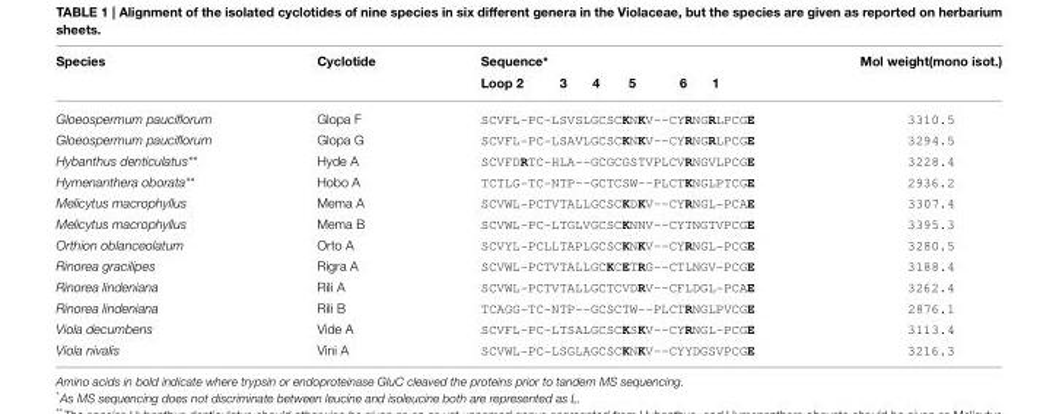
<table><thead><tr><td rowspan="2">Species</td><td rowspan="2">Cyclotide</td><td rowspan="2">Sequence* Loop 2 3 4 5 6 1</td><td rowspan="2">Mol weight(mono isot.)</td></tr><tr></tr></thead><tbody><tr><td>Gloeospermum pauciflorum</td><td>Glopa F</td><td>SCVFL-PC-LSVSLGCSCKNKV––CYRNGRLPCGE</td><td>3310.5</td></tr><tr><td>Gloeospermum pauciflorum</td><td>Glopa G</td><td>SCVFL-PC-LSAVLGCSCKNKV––CYRNGRLPCGE</td><td>3294.5</td></tr><tr><td>Hybanthus denticulatus**</td><td>Hyde A</td><td>SCVFDRTC-HLA––GCGCGSTVPLCVRNGVLPCGE</td><td>3228.4</td></tr><tr><td>Hymenanthera oborata**</td><td>Hobo A</td><td>TCTLG-TC-NTP––GCTCSW––PLCTKNGLPTCGE</td><td>2936.2</td></tr><tr><td>Melicytus macrophyllus</td><td>Mema A</td><td>SCVWL-PCTVTALLGCSCKDKV––CYRNGL-PCAE</td><td>3307.4</td></tr><tr><td>Melicytus macrophyllus</td><td>Mema B</td><td>SCVWL-PC-LTGLVGCSCKNNV––CYTNGTVPCGE</td><td>3395.3</td></tr><tr><td>Orthion oblanceolatum</td><td>Orto A</td><td>SCVYL-PCLLTAPLGCSCKNKV––CYRNGL-PCGE</td><td>3280.5</td></tr><tr><td>Rinorea gracilipes</td><td>Rigra A</td><td>SCVWL-PCTVTALLGCKCETRG––CTLNGV-PCGE</td><td>3188.4</td></tr><tr><td>Rinorea lindeniana</td><td>Rili A</td><td>SCVWL-PCTVTALLGCTCVDRV––CFLDGL-PCAE</td><td>3262.4</td></tr><tr><td>Rinorea lindeniana</td><td>Rili B</td><td>TCAGG-TC-NTP––GCSCTW––PLCTRNGLPVCGE</td><td>2876.1</td></tr><tr><td>Viola decumbens</td><td>Vide A</td><td>SCVFL-PC-LTSALGCSCKSKV––CYRNGL-PCGE</td><td>3113.4</td></tr><tr><td>Viola nivalis</td><td>Vini A</td><td>SCVWL-PC-LSGLAGCSCKNKV––CYYDGSVPCGE</td><td>3216.3</td></tr></tbody></table>